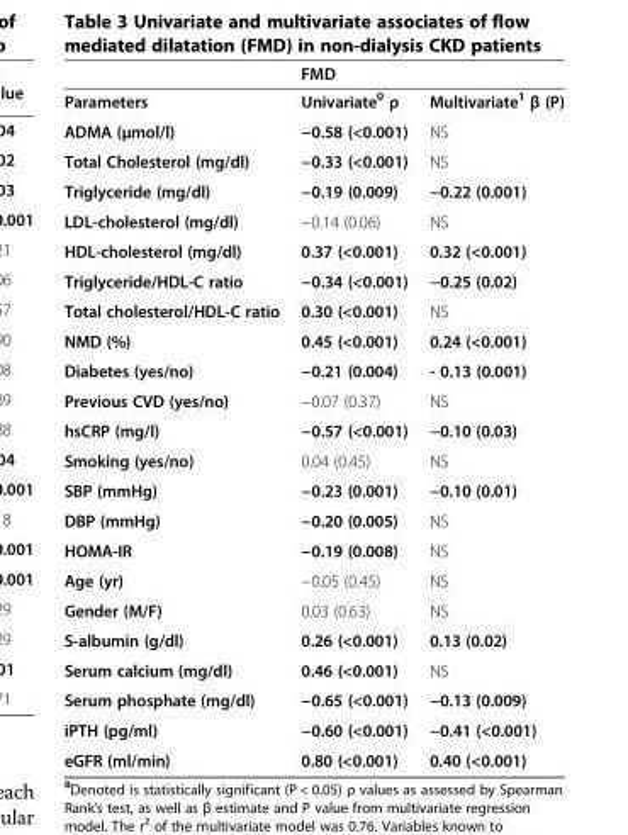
<table><thead><tr><td rowspan="2">Parameters</td><td colspan="2">FMD</td></tr><tr><td>Univariate<sup>0</sup> ρ</td><td>Multivariate<sup>1</sup> β (P)</td></tr></thead><tbody><tr><td>ADMA (μmol/l)</td><td>−0.58 (&lt;0.001)</td><td>NS</td></tr><tr><td>Total Cholesterol (mg/dl)</td><td>−0.33 (&lt;0.001)</td><td>NS</td></tr><tr><td>Triglyceride (mg/dl)</td><td>−0.19 (0.009)</td><td>−0.22 (0.001)</td></tr><tr><td>LDL-cholesterol (mg/dl)</td><td>−0.14 (0.06)</td><td>NS</td></tr><tr><td>HDL-cholesterol (mg/dl)</td><td>0.37 (&lt;0.001)</td><td>0.32 (&lt;0.001)</td></tr><tr><td>Triglyceride/HDL-C ratio</td><td>−0.34 (&lt;0.001)</td><td>−0.25 (0.02)</td></tr><tr><td>Total cholesterol/HDL-C ratio</td><td>0.30 (&lt;0.001)</td><td>NS</td></tr><tr><td>NMD (%)</td><td>0.45 (&lt;0.001)</td><td>0.24 (&lt;0.001)</td></tr><tr><td>Diabetes (yes/no)</td><td>−0.21 (0.004)</td><td>- 0.13 (0.001)</td></tr><tr><td>Previous CVD (yes/no)</td><td>−0.07 (0.37)</td><td>NS</td></tr><tr><td>hsCRP (mg/l)</td><td>−0.57 (&lt;0.001)</td><td>−0.10 (0.03)</td></tr><tr><td>Smoking (yes/no)</td><td>0.04 (0.45)</td><td>NS</td></tr><tr><td>SBP (mmHg)</td><td>−0.23 (0.001)</td><td>−0.10 (0.01)</td></tr><tr><td>DBP (mmHg)</td><td>−0.20 (0.005)</td><td>NS</td></tr><tr><td>HOMA-IR</td><td>−0.19 (0.008)</td><td>NS</td></tr><tr><td>Age (yr)</td><td>−0.05 (0.45)</td><td>NS</td></tr><tr><td>Gender (M/F)</td><td>0.03 (0.63)</td><td>NS</td></tr><tr><td>S-albumin (g/dl)</td><td>0.26 (&lt;0.001)</td><td>0.13 (0.02)</td></tr><tr><td>Serum calcium (mg/dl)</td><td>0.46 (&lt;0.001)</td><td>NS</td></tr><tr><td>Serum phosphate (mg/dl)</td><td>−0.65 (&lt;0.001)</td><td>−0.13 (0.009)</td></tr><tr><td>iPTH (pg/ml)</td><td>−0.60 (&lt;0.001)</td><td>−0.41 (&lt;0.001)</td></tr><tr><td>eGFR (ml/min)</td><td>0.80 (&lt;0.001)</td><td>0.40 (&lt;0.001)</td></tr></tbody></table>